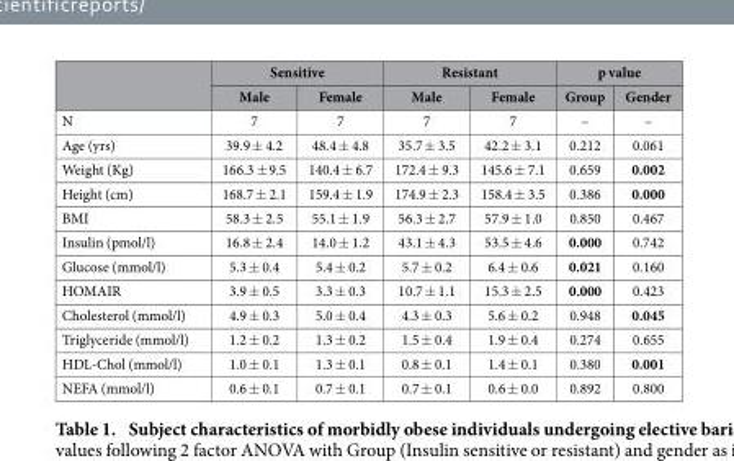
<table><thead><tr><td rowspan="2"></td><td colspan="2">Sensitive</td><td colspan="2">Resistant</td><td colspan="2">p value</td></tr><tr><td>Male</td><td>Female</td><td>Male</td><td>Female</td><td>Group</td><td>Gender</td></tr></thead><tbody><tr><td>N</td><td>7</td><td>7</td><td>7</td><td>7</td><td>–</td><td>–</td></tr><tr><td>Age (yrs)</td><td>39.9 ± 4.2</td><td>48.4 ± 4.8</td><td>35.7 ± 3.5</td><td>42.2 ± 3.1</td><td>0.212</td><td>0.061</td></tr><tr><td>Weight (Kg)</td><td>166.3 ± 9.5</td><td>140.4 ± 6.7</td><td>172.4 ± 9.3</td><td>145.6 ± 7.1</td><td>0.659</td><td>0.002</td></tr><tr><td>Height (cm)</td><td>168.7 ± 2.1</td><td>159.4 ± 1.9</td><td>174.9 ± 2.3</td><td>158.4 ± 3.5</td><td>0.386</td><td>0.000</td></tr><tr><td>BMI</td><td>58.3 ± 2.5</td><td>55.1 ± 1.9</td><td>56.3 ± 2.7</td><td>57.9 ± 1.0</td><td>0.850</td><td>0.467</td></tr><tr><td>Insulin (pmol/l)</td><td>16.8 ± 2.4</td><td>14.0 ± 1.2</td><td>43.1 ± 4.3</td><td>53.5 ± 4.6</td><td>0.000</td><td>0.742</td></tr><tr><td>Glucose (mmol/l)</td><td>5.3 ± 0.4</td><td>5.4 ± 0.2</td><td>5.7 ± 0.2</td><td>6.4 ± 0.6</td><td>0.021</td><td>0.160</td></tr><tr><td>HOMAIR</td><td>3.9 ± 0.5</td><td>3.3 ± 0.3</td><td>10.7 ± 1.1</td><td>15.3 ± 2.5</td><td>0.000</td><td>0.423</td></tr><tr><td>Cholesterol (mmol/l)</td><td>4.9 ± 0.3</td><td>5.0 ± 0.4</td><td>4.3 ± 0.3</td><td>5.6 ± 0.2</td><td>0.948</td><td>0.045</td></tr><tr><td>Triglyceride (mmol/l)</td><td>1.2 ± 0.2</td><td>1.3 ± 0.2</td><td>1.5 ± 0.4</td><td>1.9 ± 0.4</td><td>0.274</td><td>0.655</td></tr><tr><td>HDL-Chol (mmol/l)</td><td>1.0 ± 0.1</td><td>1.3 ± 0.1</td><td>0.8 ± 0.1</td><td>1.4 ± 0.1</td><td>0.380</td><td>0.001</td></tr><tr><td>NEFA (mmol/l)</td><td>0.6 ± 0.1</td><td>0.7 ± 0.1</td><td>0.7 ± 0.1</td><td>0.6 ± 0.0</td><td>0.892</td><td>0.800</td></tr></tbody></table>